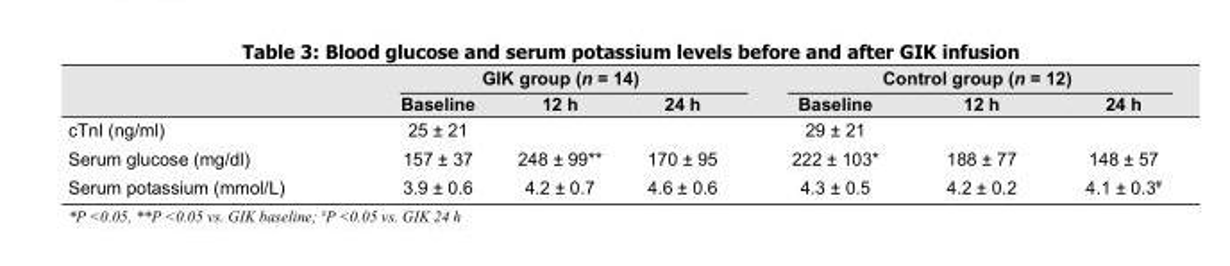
<table><thead><tr><td rowspan="2"></td><td colspan="3">GIK group (n = 14)</td><td colspan="3">Control group (n = 12)</td></tr><tr><td>Baseline</td><td>12 h</td><td>24 h</td><td>Baseline</td><td>12 h</td><td>24 h</td></tr></thead><tbody><tr><td>cTnI (ng/ml)</td><td>25 ± 21</td><td></td><td></td><td>29 ± 21</td><td></td><td></td></tr><tr><td>Serum glucose (mg/dl)</td><td>157 ± 37</td><td>2 48 ± 99**</td><td>170 ± 95</td><td>22 2 ± 10 3*</td><td>188 ± 77</td><td>148 ± 57</td></tr><tr><td>Serum potassium (mmol/L)</td><td>3.9 ± 0.6</td><td>4.2 ± 0.7</td><td>4.6 ± 0.6</td><td>4.3 ± 0.5</td><td>4.2 ± 0.2</td><td>4.1 ± 0.3#</td></tr></tbody></table>